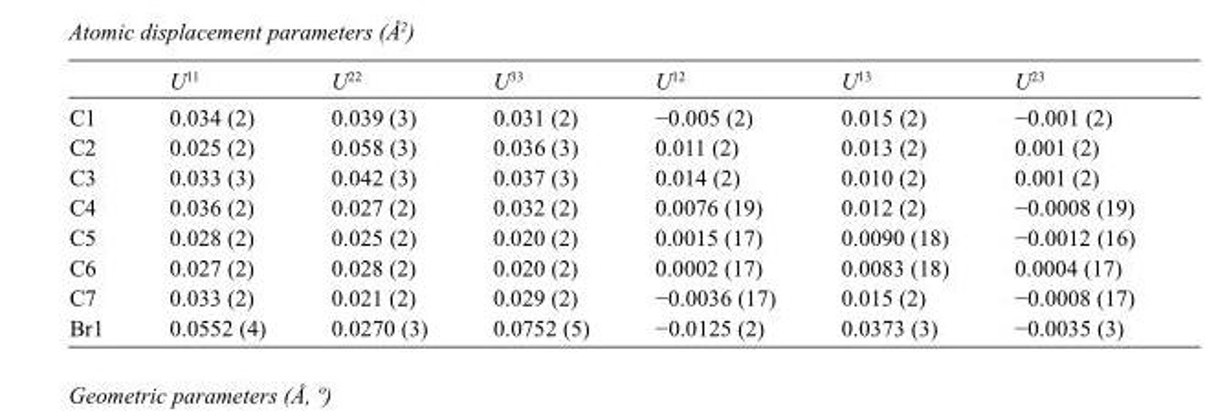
<table><thead><tr><td></td><td>U<sup>11</sup></td><td>U<sup>22</sup></td><td>U<sup>33</sup></td><td>U<sup>12</sup></td><td>U<sup>13</sup></td><td>U<sup>23</sup></td></tr></thead><tbody><tr><td>C1</td><td>0.034 (2)</td><td>0.039 (3)</td><td>0.031 (2)</td><td>−0.005 (2)</td><td>0.015 (2)</td><td>−0.001 (2)</td></tr><tr><td>C2</td><td>0.025 (2)</td><td>0.058 (3)</td><td>0.036 (3)</td><td>0.011 (2)</td><td>0.013 (2)</td><td>0.001 (2)</td></tr><tr><td>C3</td><td>0.033 (3)</td><td>0.042 (3)</td><td>0.037 (3)</td><td>0.014 (2)</td><td>0.010 (2)</td><td>0.001 (2)</td></tr><tr><td>C4</td><td>0.036 (2)</td><td>0.027 (2)</td><td>0.032 (2)</td><td>0.0076 (19)</td><td>0.012 (2)</td><td>−0.0008 (19)</td></tr><tr><td>C5</td><td>0.028 (2)</td><td>0.025 (2)</td><td>0.020 (2)</td><td>0.0015 (17)</td><td>0.0090 (18)</td><td>−0.0012 (16)</td></tr><tr><td>C6</td><td>0.027 (2)</td><td>0.028 (2)</td><td>0.020 (2)</td><td>0.0002 (17)</td><td>0.0083 (18)</td><td>0.0004 (17)</td></tr><tr><td>C7</td><td>0.033 (2)</td><td>0.021 (2)</td><td>0.029 (2)</td><td>−0.0036 (17)</td><td>0.015 (2)</td><td>−0.0008 (17)</td></tr><tr><td>Br1</td><td>0.0552 (4)</td><td>0.0270 (3)</td><td>0.0752 (5)</td><td>−0.0125 (2)</td><td>0.0373 (3)</td><td>−0.0035 (3)</td></tr></tbody></table>